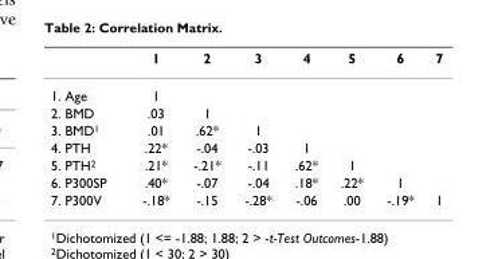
<table><thead><tr><td></td><td>1</td><td>2</td><td>3</td><td>4</td><td>5</td><td>6</td><td>7</td></tr></thead><tbody><tr><td>1. Age</td><td>1</td><td></td><td></td><td></td><td></td><td></td><td></td></tr><tr><td>2. BMD</td><td>.03</td><td>1</td><td></td><td></td><td></td><td></td><td></td></tr><tr><td>3. BMD<sup>1</sup></td><td>.01</td><td>.62*</td><td>1</td><td></td><td></td><td></td><td></td></tr><tr><td>4. PTH</td><td>.22*</td><td>-.04</td><td>-.03</td><td>1</td><td></td><td></td><td></td></tr><tr><td>5. PTH<sup>2</sup></td><td>.21*</td><td>-.21*</td><td>-.11</td><td>.62*</td><td>1</td><td></td><td></td></tr><tr><td>6. P300SP</td><td>.40*</td><td>-.07</td><td>-.04</td><td>.18*</td><td>.22*</td><td>1</td><td></td></tr><tr><td>7. P300V</td><td>-.18*</td><td>-.15</td><td>-.28*</td><td>-.06</td><td>.00</td><td>-.19*</td><td>1</td></tr></tbody></table>